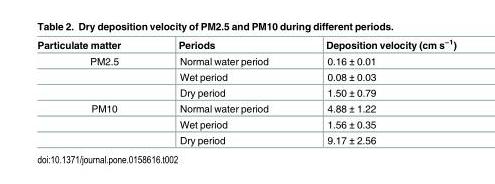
<table><thead><tr><td>Particulate matter</td><td>Periods</td><td>Deposition velocity (cm s<sup>−1</sup>)</td></tr></thead><tbody><tr><td rowspan="3">PM2.5</td><td>Normal water period</td><td>0.16 ± 0.01</td></tr><tr><td>Wet period</td><td>0.08 ± 0.03</td></tr><tr><td>Dry period</td><td>1.50 ± 0.79</td></tr><tr><td rowspan="3">PM10</td><td>Normal water period</td><td>4.88 ± 1.22</td></tr><tr><td>Wet period</td><td>1.56 ± 0.35</td></tr><tr><td>Dry period</td><td>9.17 ± 2.56</td></tr></tbody></table>